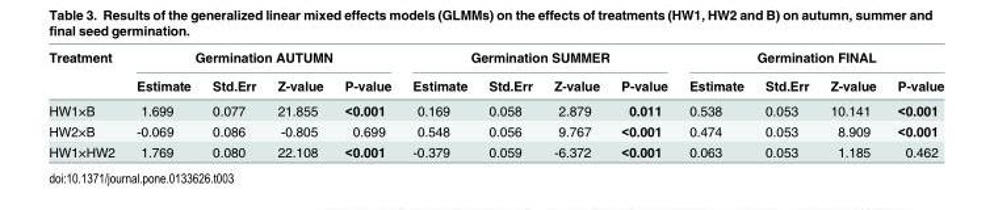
<table><thead><tr><td rowspan="2">Treatment</td><td colspan="4">Germination AUTUMN</td><td colspan="4">Germination SUMMER</td><td colspan="4">Germination FINAL</td></tr><tr><td>Estimate</td><td>Std.Err</td><td>Z-value</td><td>P-value</td><td>Estimate</td><td>Std.Err</td><td>Z-value</td><td>P-value</td><td>Estimate</td><td>Std.Err</td><td>Z-value</td><td>P-value</td></tr></thead><tbody><tr><td>HW1×B</td><td>1.699</td><td>0.077</td><td>21.855</td><td>&lt;0.001</td><td>0.169</td><td>0.058</td><td>2.879</td><td>0.011</td><td>0.538</td><td>0.053</td><td>10.141</td><td>&lt;0.001</td></tr><tr><td>HW2×B</td><td>-0.069</td><td>0.086</td><td>-0.805</td><td>0.699</td><td>0.548</td><td>0.056</td><td>9.767</td><td>&lt;0.001</td><td>0.474</td><td>0.053</td><td>8.909</td><td>&lt;0.001</td></tr><tr><td>HW1×HW2</td><td>1.769</td><td>0.080</td><td>22.108</td><td>&lt;0.001</td><td>-0.379</td><td>0.059</td><td>-6.372</td><td>&lt;0.001</td><td>0.063</td><td>0.053</td><td>1.185</td><td>0.462</td></tr></tbody></table>